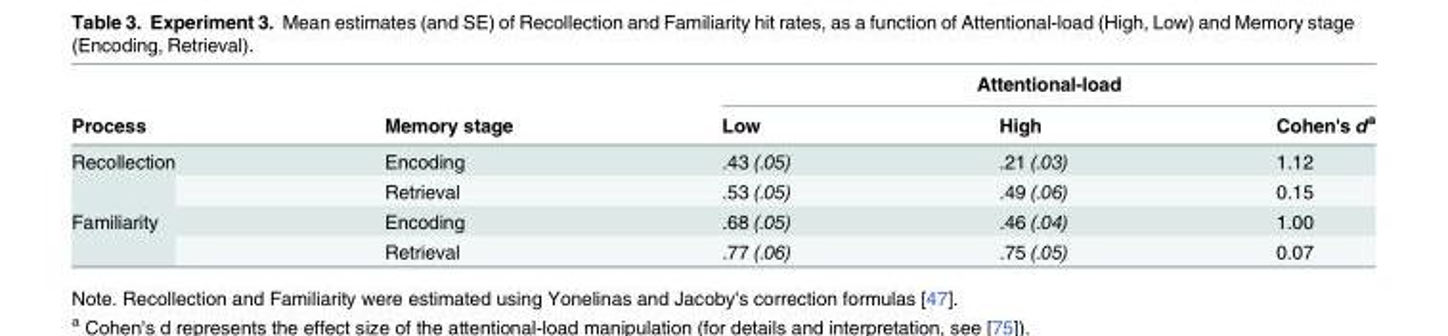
<table><thead><tr><td rowspan="2">Process</td><td rowspan="2">Memory stage</td><td colspan="3">Attentional-load</td></tr><tr><td>Low</td><td>High</td><td>Cohen&#x27;s d<sup>a</sup></td></tr></thead><tbody><tr><td rowspan="2">Recollection</td><td>Encoding</td><td>.43 (.05)</td><td>.21 (.03)</td><td>1.12</td></tr><tr><td>Retrieval</td><td>.53 (.05)</td><td>.49 (.06)</td><td>0.15</td></tr><tr><td rowspan="2">Familiarity</td><td>Encoding</td><td>.68 (.05)</td><td>.46 (.04)</td><td>1.00</td></tr><tr><td>Retrieval</td><td>.77 (.06)</td><td>.75 (.05)</td><td>0.07</td></tr></tbody></table>